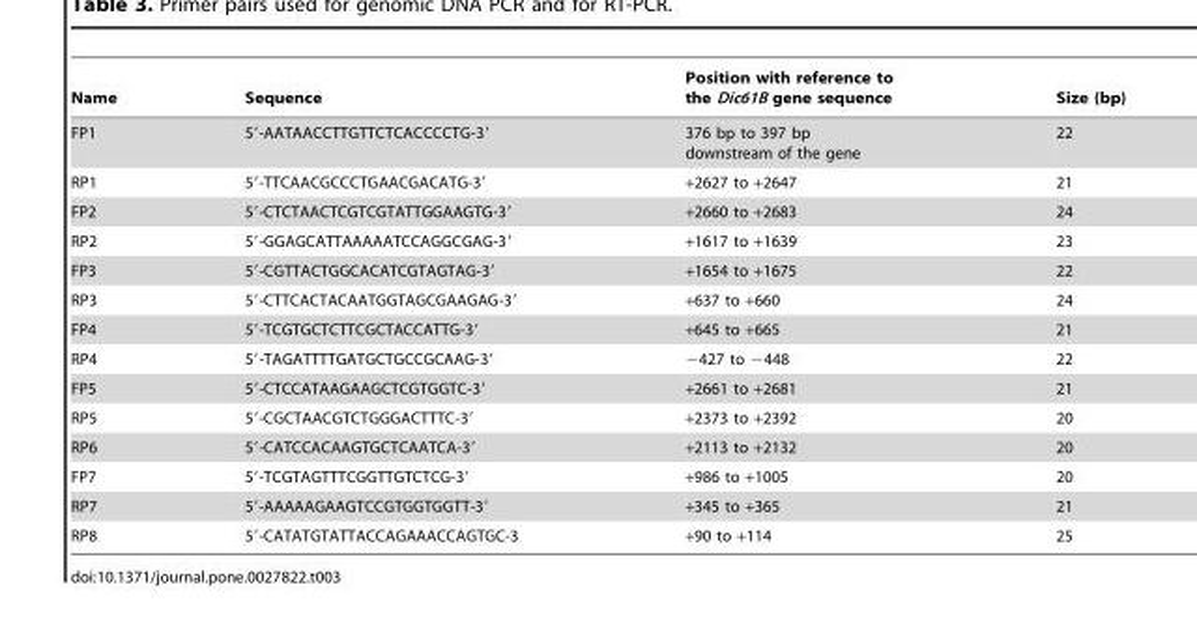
<table><thead><tr><td>Name</td><td>Sequence</td><td>Position with reference to the Dic61B gene sequence</td><td>Size (bp)</td></tr></thead><tbody><tr><td>FP1</td><td>5′-AATAACCTTGTTCTCACCCCTG-3′</td><td>376 bp to 397 bp downstream of the gene</td><td>22</td></tr><tr><td>RP1</td><td>5′-TTCAACGCCCTGAACGACATG-3′</td><td>+2627 to +2647</td><td>21</td></tr><tr><td>FP2</td><td>5′-CTCTAACTCGTCGTATTGGAAGTG-3′</td><td>+2660 to +2683</td><td>24</td></tr><tr><td>RP2</td><td>5′-GGAGCATTAAAAATCCAGGCGAG-3′</td><td>+1617 to +1639</td><td>23</td></tr><tr><td>FP3</td><td>5′-CGTTACTGGCACATCGTAGTAG-3′</td><td>+1654 to +1675</td><td>22</td></tr><tr><td>RP3</td><td>5′-CTTCACTACAATGGTAGCGAAGAG-3′</td><td>+637 to +660</td><td>24</td></tr><tr><td>FP4</td><td>5′-TCGTGCTCTTCGCTACCATTG-3′</td><td>+645 to +665</td><td>21</td></tr><tr><td>RP4</td><td>5′-TAGATTTTGATGCTGCCGCAAG-3′</td><td>−427 to −448</td><td>22</td></tr><tr><td>FP5</td><td>5′-CTCCATAAGAAGCTCGTGGTC-3′</td><td>+2661 to +2681</td><td>21</td></tr><tr><td>RP5</td><td>5′-CGCTAACGTCTGGGACTTTC-3′</td><td>+2373 to +2392</td><td>20</td></tr><tr><td>RP6</td><td>5′-CATCCACAAGTGCTCAATCA-3′</td><td>+2113 to +2132</td><td>20</td></tr><tr><td>FP7</td><td>5′-TCGTAGTTTCGGTTGTCTCG-3′</td><td>+986 to +1005</td><td>20</td></tr><tr><td>RP7</td><td>5′-AAAAAGAAGTCCGTGGTGGTT-3′</td><td>+345 to +365</td><td>21</td></tr><tr><td>RP8</td><td>5′-CATATGTATTACCAGAAACCAGTGC-3</td><td>+90 to +114</td><td>25</td></tr></tbody></table>